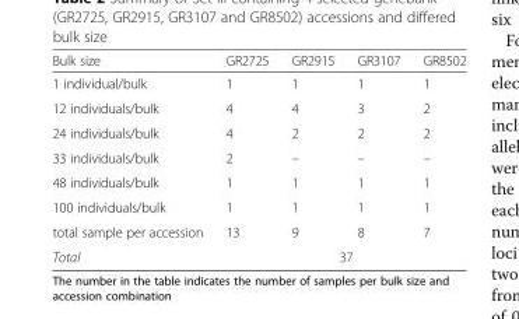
<table><thead><tr><td>Bulk size</td><td>GR2725</td><td>GR2915</td><td>GR3107</td><td>GR8502</td></tr></thead><tbody><tr><td>1 individual/bulk</td><td>1</td><td>1</td><td>1</td><td>1</td></tr><tr><td>12 individuals/bulk</td><td>4</td><td>4</td><td>3</td><td>2</td></tr><tr><td>24 individuals/bulk</td><td>4</td><td>2</td><td>2</td><td>2</td></tr><tr><td>33 individuals/bulk</td><td>2</td><td>–</td><td>–</td><td>–</td></tr><tr><td>48 individuals/bulk</td><td>1</td><td>1</td><td>1</td><td>1</td></tr><tr><td>100 individuals/bulk</td><td>1</td><td>1</td><td>1</td><td>1</td></tr><tr><td>total sample per accession</td><td>13</td><td>9</td><td>8</td><td>7</td></tr><tr><td>Total</td><td colspan="4">37</td></tr></tbody></table>